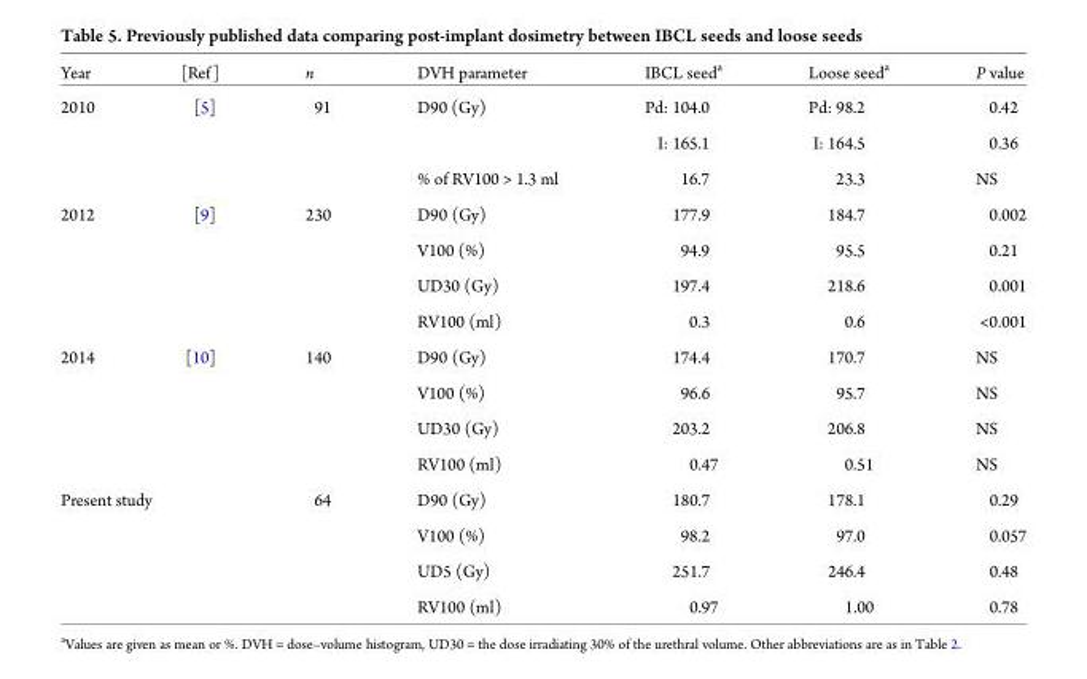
<table><thead><tr><td>Year</td><td>[Ref]</td><td>n</td><td>DVH parameter</td><td>IBCL seed<sup>a</sup></td><td>Loose seed<sup>a</sup></td><td>P value</td></tr></thead><tbody><tr><td rowspan="3">2010</td><td>[5]</td><td>91</td><td>D90 (Gy)</td><td>Pd: 104.0</td><td>Pd: 98.2</td><td>0.42</td></tr><tr><td></td><td></td><td></td><td>I: 165.1</td><td>I: 164.5</td><td>0.36</td></tr><tr><td></td><td></td><td>% of RV100 &gt; 1.3 ml</td><td>16.7</td><td>23.3</td><td>NS</td></tr><tr><td rowspan="4">2012</td><td>[9]</td><td>230</td><td>D90 (Gy)</td><td>177.9</td><td>184.7</td><td>0.002</td></tr><tr><td></td><td></td><td>V100 (%)</td><td>94.9</td><td>95.5</td><td>0.21</td></tr><tr><td></td><td></td><td>UD30 (Gy)</td><td>197.4</td><td>218.6</td><td>0.001</td></tr><tr><td></td><td></td><td>RV100 (ml)</td><td>0.3</td><td>0.6</td><td>&lt;0.001</td></tr><tr><td rowspan="4">2014</td><td>[10]</td><td>140</td><td>D90 (Gy)</td><td>174.4</td><td>170.7</td><td>NS</td></tr><tr><td></td><td></td><td>V100 (%)</td><td>96.6</td><td>95.7</td><td>NS</td></tr><tr><td></td><td></td><td>UD30 (Gy)</td><td>203.2</td><td>206.8</td><td>NS</td></tr><tr><td></td><td></td><td>RV100 (ml)</td><td>0.47</td><td>0.51</td><td>NS</td></tr><tr><td colspan="2">Present study</td><td>64</td><td>D90 (Gy)</td><td>180.7</td><td>178.1</td><td>0.29</td></tr><tr><td></td><td></td><td></td><td>V100 (%)</td><td>98.2</td><td>97.0</td><td>0.057</td></tr><tr><td></td><td></td><td></td><td>UD5 (Gy)</td><td>251.7</td><td>246.4</td><td>0.48</td></tr><tr><td></td><td></td><td></td><td>RV100 (ml)</td><td>0.97</td><td>1.00</td><td>0.78</td></tr></tbody></table>